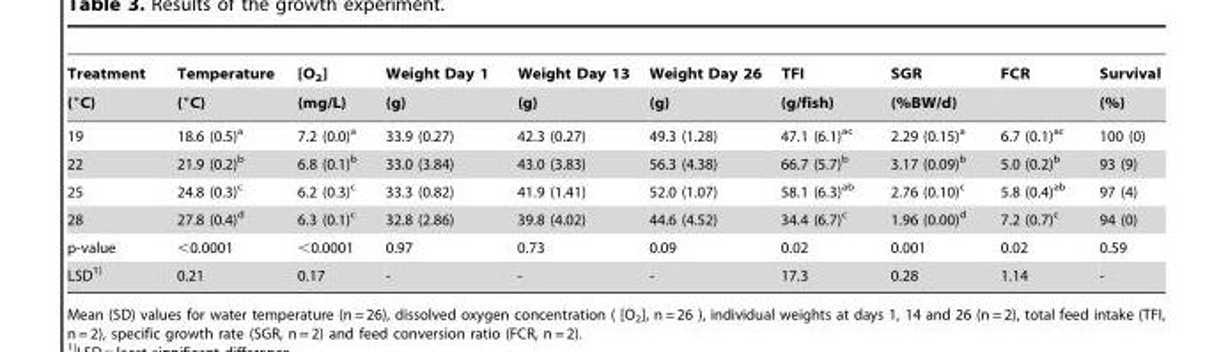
<table><thead><tr><td rowspan="2">Treatment (°C)</td><td rowspan="2">Temperature (°C)</td><td rowspan="2">[O<sub>2</sub>] (mg/L)</td><td rowspan="2">Weight Day 1 (g)</td><td rowspan="2">Weight Day 13 (g)</td><td rowspan="2">Weight Day 26 (g)</td><td rowspan="2">TFI (g/fish)</td><td rowspan="2">SGR (%BW/d)</td><td rowspan="2">FCR</td><td rowspan="2">Survival (%)</td></tr><tr></tr></thead><tbody><tr><td>19</td><td>18.6 (0.5)<sup>a</sup></td><td>7.2 (0.0)<sup>a</sup></td><td>33.9 (0.27)</td><td>42.3 (0.27)</td><td>49.3 (1.28)</td><td>47.1 (6.1)<sup>ac</sup></td><td>2.29 (0.15)<sup>a</sup></td><td>6.7 (0.1)<sup>ac</sup></td><td>100 (0)</td></tr><tr><td>22</td><td>21.9 (0.2)<sup>b</sup></td><td>6.8 (0.1)<sup>b</sup></td><td>33.0 (3.84)</td><td>43.0 (3.83)</td><td>56.3 (4.38)</td><td>66.7 (5.7)<sup>b</sup></td><td>3.17 (0.09)<sup>b</sup></td><td>5.0 (0.2)<sup>b</sup></td><td>93 (9)</td></tr><tr><td>25</td><td>24.8 (0.3)<sup>c</sup></td><td>6.2 (0.3)<sup>c</sup></td><td>33.3 (0.82)</td><td>41.9 (1.41)</td><td>52.0 (1.07)</td><td>58.1 (6.3)<sup>ab</sup></td><td>2.76 (0.10)<sup>c</sup></td><td>5.8 (0.4)<sup>ab</sup></td><td>97 (4)</td></tr><tr><td>28</td><td>27.8 (0.4)<sup>d</sup></td><td>6.3 (0.1)<sup>c</sup></td><td>32.8 (2.86)</td><td>39.8 (4.02)</td><td>44.6 (4.52)</td><td>34.4 (6.7)<sup>c</sup></td><td>1.96 (0.00)<sup>d</sup></td><td>7.2 (0.7)<sup>c</sup></td><td>94 (0)</td></tr><tr><td>p-value</td><td>&lt;0.0001</td><td>&lt;0.0001</td><td>0.97</td><td>0.73</td><td>0.09</td><td>0.02</td><td>0.001</td><td>0.02</td><td>0.59</td></tr><tr><td>LSD1)</td><td>0.21</td><td>0.17</td><td>-</td><td>-</td><td>-</td><td>17.3</td><td>0.28</td><td>1.14</td><td>-</td></tr></tbody></table>